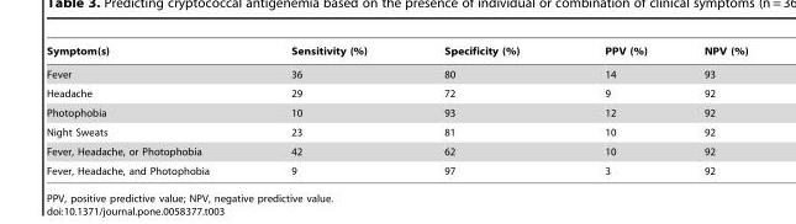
<table><thead><tr><td>Symptom(s)</td><td>Sensitivity (%)</td><td>Specificity (%)</td><td>PPV (%)</td><td>NPV (%)</td></tr></thead><tbody><tr><td>Fever</td><td>36</td><td>80</td><td>14</td><td>93</td></tr><tr><td>Headache</td><td>29</td><td>72</td><td>9</td><td>92</td></tr><tr><td>Photophobia</td><td>10</td><td>93</td><td>12</td><td>92</td></tr><tr><td>Night Sweats</td><td>23</td><td>81</td><td>10</td><td>92</td></tr><tr><td>Fever, Headache, or Photophobia</td><td>42</td><td>62</td><td>10</td><td>92</td></tr><tr><td>Fever, Headache, and Photophobia</td><td>9</td><td>97</td><td>3</td><td>92</td></tr></tbody></table>